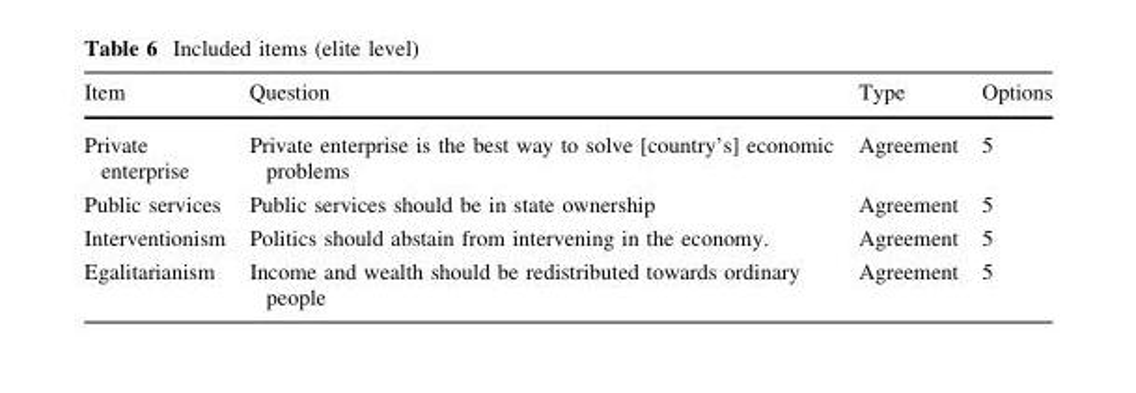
<table><thead><tr><td>Item</td><td>Question</td><td>Type</td><td>Options</td></tr></thead><tbody><tr><td>Private enterprise</td><td>Private enterprise is the best way to solve [country’s] economic problems</td><td>Agreement</td><td>5</td></tr><tr><td>Public services</td><td>Public services should be in state ownership</td><td>Agreement</td><td>5</td></tr><tr><td>Interventionism</td><td>Politics should abstain from intervening in the economy.</td><td>Agreement</td><td>5</td></tr><tr><td>Egalitarianism</td><td>Income and wealth should be redistributed towards ordinary people</td><td>Agreement</td><td>5</td></tr></tbody></table>